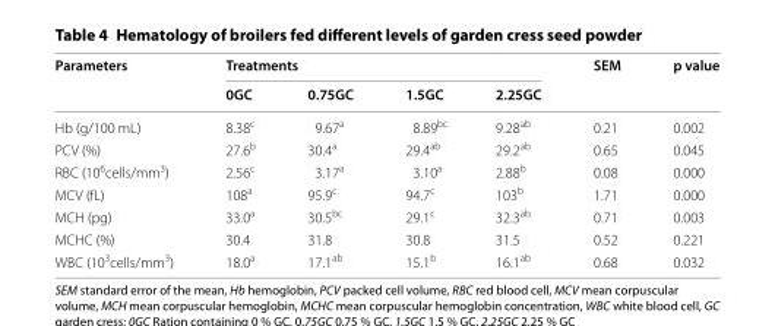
<table><thead><tr><td rowspan="2">Parameters</td><td colspan="4">Treatments</td><td rowspan="2">SEM</td><td rowspan="2">p value</td></tr><tr><td>0GC</td><td>0.75GC</td><td>1.5GC</td><td>2.25GC</td></tr></thead><tbody><tr><td>Hb (g/100 mL)</td><td>8.38<sup>c</sup></td><td>9.67<sup>a</sup></td><td>8.89<sup>bc</sup></td><td>9.28<sup>ab</sup></td><td>0.21</td><td>0.002</td></tr><tr><td>PCV (%)</td><td>27.6<sup>b</sup></td><td>30.4<sup>a</sup></td><td>29.4<sup>ab</sup></td><td>29.2<sup>ab</sup></td><td>0.65</td><td>0.045</td></tr><tr><td>RBC (10<sup>6</sup>cells/mm<sup>3</sup>)</td><td>2.56<sup>c</sup></td><td>3.17<sup>a</sup></td><td>3.10<sup>a</sup></td><td>2.88<sup>b</sup></td><td>0.08</td><td>0.000</td></tr><tr><td>MCV (fL)</td><td>108<sup>a</sup></td><td>95.9<sup>c</sup></td><td>94.7<sup>c</sup></td><td>103<sup>b</sup></td><td>1.71</td><td>0.000</td></tr><tr><td>MCH (pg)</td><td>33.0<sup>a</sup></td><td>30.5<sup>bc</sup></td><td>29.1<sup>c</sup></td><td>32.3<sup>ab</sup></td><td>0.71</td><td>0.003</td></tr><tr><td>MCHC (%)</td><td>30.4</td><td>31.8</td><td>30.8</td><td>31.5</td><td>0.52</td><td>0.221</td></tr><tr><td>WBC (10<sup>3</sup>cells/mm<sup>3</sup>)</td><td>18.0<sup>a</sup></td><td>17.1<sup>ab</sup></td><td>15.1<sup>b</sup></td><td>16.1<sup>ab</sup></td><td>0.68</td><td>0.032</td></tr></tbody></table>